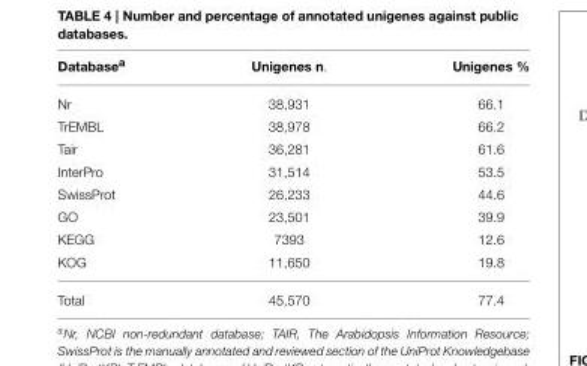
<table><thead><tr><td>Database<sup>a</sup></td><td>Unigenes n.</td><td>Unigenes %</td></tr></thead><tbody><tr><td>Nr</td><td>38,931</td><td>66.1</td></tr><tr><td>TrEMBL</td><td>38,978</td><td>66.2</td></tr><tr><td>Tair</td><td>36,281</td><td>61.6</td></tr><tr><td>InterPro</td><td>31,514</td><td>53.5</td></tr><tr><td>SwissProt</td><td>26,233</td><td>44.6</td></tr><tr><td>GO</td><td>23,501</td><td>39.9</td></tr><tr><td>KEGG</td><td>7393</td><td>12.6</td></tr><tr><td>KOG</td><td>11,650</td><td>19.8</td></tr><tr><td>Total</td><td>45,570</td><td>77.4</td></tr></tbody></table>